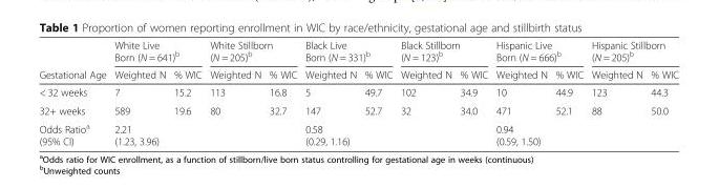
<table><thead><tr><td rowspan="2">Gestational Age</td><td colspan="2">White Live Born (N = 641)<sup>b</sup></td><td colspan="2">White Stillborn (N = 205)<sup>b</sup></td><td colspan="2">Black Live Born (N = 331)<sup>b</sup></td><td colspan="2">Black Stillborn (N = 123)<sup>b</sup></td><td colspan="2">Hispanic Live Born (N = 666)<sup>b</sup></td><td colspan="2">Hispanic Stillborn (N = 205)<sup>b</sup></td></tr><tr><td>Weighted N</td><td>% WIC</td><td>Weighted N</td><td>% WIC</td><td>Weighted N</td><td>% WIC</td><td>Weighted N</td><td>% WIC</td><td>Weighted N</td><td>% WIC</td><td>Weighted N</td><td>% WIC</td></tr></thead><tbody><tr><td>&lt; 32 weeks</td><td>7</td><td>15.2</td><td>113</td><td>16.8</td><td>5</td><td>49.7</td><td>102</td><td>34.9</td><td>10</td><td>44.9</td><td>123</td><td>44.3</td></tr><tr><td>32+ weeks</td><td>589</td><td>19.6</td><td>80</td><td>32.7</td><td>147</td><td>52.7</td><td>32</td><td>34.0</td><td>471</td><td>52.1</td><td>88</td><td>50.0</td></tr><tr><td>Odds Ratio<sup>a</sup> (95% CI)</td><td colspan="4">2.21 (1.23, 3.96)</td><td colspan="4">0.58 (0.29, 1.16)</td><td colspan="4">0.94 (0.59, 1.50)</td></tr></tbody></table>